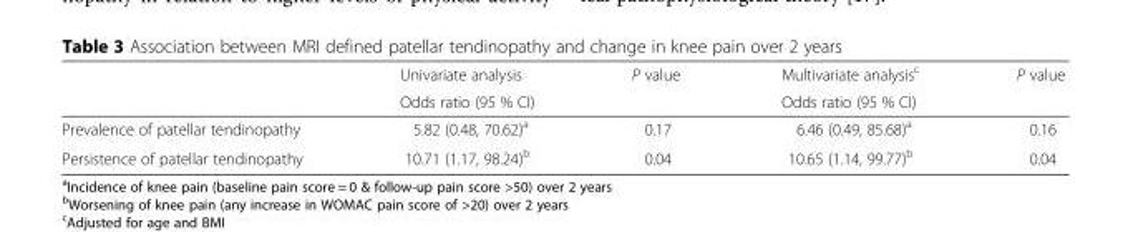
<table><thead><tr><td rowspan="2"></td><td rowspan="2">Univariate analysis Odds ratio (95 % CI)</td><td rowspan="2">P value</td><td rowspan="2">Multivariate analysis<sup>c</sup> Odds ratio (95 % CI)</td><td rowspan="2">P value</td></tr><tr></tr></thead><tbody><tr><td>Prevalence of patellar tendinopathy</td><td>5.82 (0.48, 70.62)<sup>a</sup></td><td>0.17</td><td>6.46 (0.49, 85.68)<sup>a</sup></td><td>0.16</td></tr><tr><td>Persistence of patellar tendinopathy</td><td>10.71 (1.17, 98.24)<sup>b</sup></td><td>0.04</td><td>10.65 (1.14, 99.77)<sup>b</sup></td><td>0.04</td></tr></tbody></table>